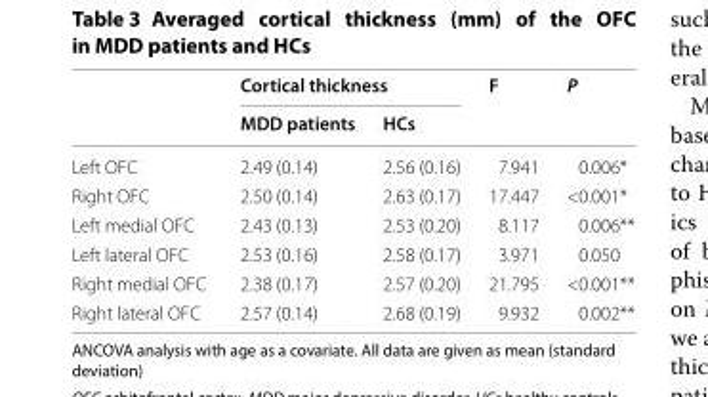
<table><thead><tr><td rowspan="2"></td><td colspan="2">Cortical thickness</td><td rowspan="2">F</td><td rowspan="2">P</td></tr><tr><td>MDD patients</td><td>HCs</td></tr></thead><tbody><tr><td>Left OFC</td><td>2.49 (0.14)</td><td>2.56 (0.16)</td><td>7.941</td><td>0.006*</td></tr><tr><td>Right OFC</td><td>2.50 (0.14)</td><td>2.63 (0.17)</td><td>17.447</td><td>&lt;0.001*</td></tr><tr><td>Left medial OFC</td><td>2.43 (0.13)</td><td>2.53 (0.20)</td><td>8.117</td><td>0.006**</td></tr><tr><td>Left lateral OFC</td><td>2.53 (0.16)</td><td>2.58 (0.17)</td><td>3.971</td><td>0.050</td></tr><tr><td>Right medial OFC</td><td>2.38 (0.17)</td><td>2.57 (0.20)</td><td>21.795</td><td>&lt;0.001**</td></tr><tr><td>Right lateral OFC</td><td>2.57 (0.14)</td><td>2.68 (0.19)</td><td>9.932</td><td>0.002**</td></tr></tbody></table>